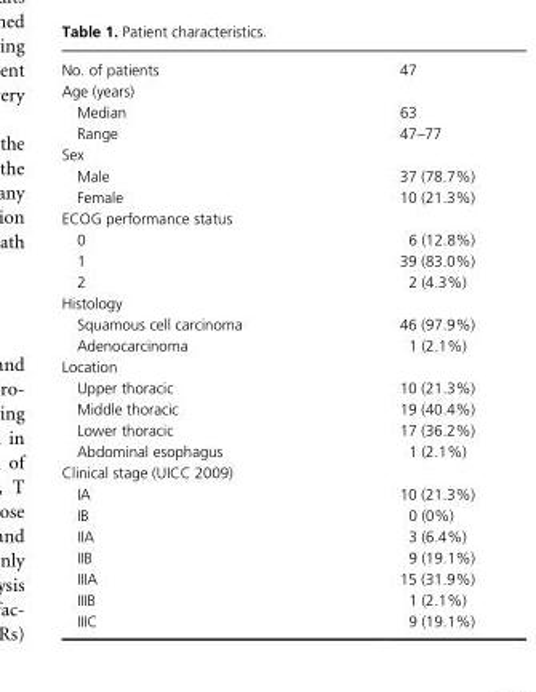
<table><tbody><tr><td>No. of patients</td><td>47</td></tr><tr><td colspan="2">Age (years)</td></tr><tr><td>Median</td><td>63</td></tr><tr><td>Range</td><td>47–77</td></tr><tr><td colspan="2">Sex</td></tr><tr><td>Male</td><td>37 (78.7%)</td></tr><tr><td>Female</td><td>10 (21.3%)</td></tr><tr><td colspan="2">ECOG performance status</td></tr><tr><td>0</td><td>6 (12.8%)</td></tr><tr><td>1</td><td>39 (83.0%)</td></tr><tr><td>2</td><td>2 (4.3%)</td></tr><tr><td colspan="2">Histology</td></tr><tr><td>Squamous cell carcinoma</td><td>46 (97.9%)</td></tr><tr><td>Adenocarcinoma</td><td>1 (2.1%)</td></tr><tr><td colspan="2">Location</td></tr><tr><td>Upper thoracic</td><td>10 (21.3%)</td></tr><tr><td>Middle thoracic</td><td>19 (40.4%)</td></tr><tr><td>Lower thoracic</td><td>17 (36.2%)</td></tr><tr><td>Abdominal esophagus</td><td>1 (2.1%)</td></tr><tr><td colspan="2">Clinical stage (UICC 2009)</td></tr><tr><td>IA</td><td>10 (21.3%)</td></tr><tr><td>IB</td><td>0 (0%)</td></tr><tr><td>IIA</td><td>3 (6.4%)</td></tr><tr><td>IIB</td><td>9 (19.1%)</td></tr><tr><td>IIIA</td><td>15 (31.9%)</td></tr><tr><td>IIIB</td><td>1 (2.1%)</td></tr><tr><td>IIIC</td><td>9 (19.1%)</td></tr></tbody></table>